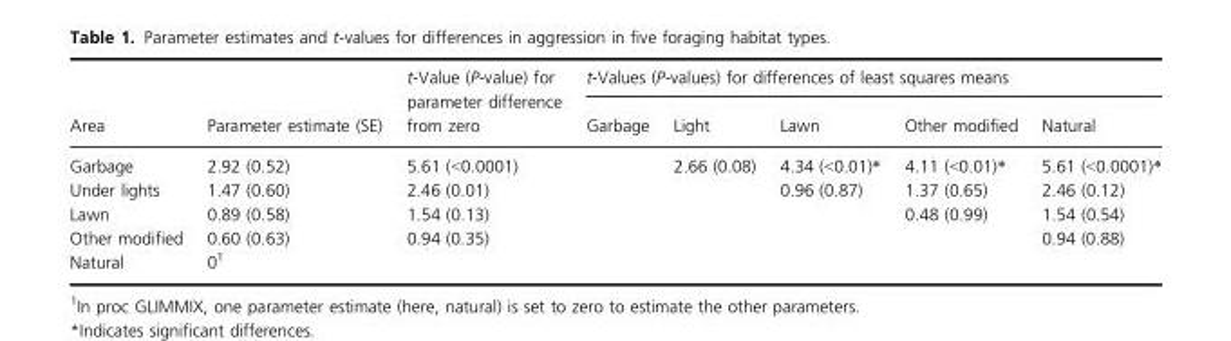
<table><thead><tr><td rowspan="2">Area</td><td rowspan="2">Parameter estimate (SE)</td><td rowspan="2">t-Value (P-value) for parameter difference from zero</td><td colspan="5">t-Values (P-values) for differences of least squares means</td></tr><tr><td>Garbage</td><td>Light</td><td>Lawn</td><td>Other modified</td><td>Natural</td></tr></thead><tbody><tr><td>Garbage</td><td>2.92 (0.52)</td><td>5.61 (&lt;0.0001)</td><td></td><td>2.66 (0.08)</td><td>4.34 (&lt;0.01)*</td><td>4.11 (&lt;0.01)*</td><td>5.61 (&lt;0.0001)*</td></tr><tr><td>Under lights</td><td>1.47 (0.60)</td><td>2.46 (0.01)</td><td></td><td></td><td>0.96 (0.87)</td><td>1.37 (0.65)</td><td>2.46 (0.12)</td></tr><tr><td>Lawn</td><td>0.89 (0.58)</td><td>1.54 (0.13)</td><td></td><td></td><td></td><td>0.48 (0.99)</td><td>1.54 (0.54)</td></tr><tr><td>Other modified</td><td>0.60 (0.63)</td><td>0.94 (0.35)</td><td></td><td></td><td></td><td></td><td>0.94 (0.88)</td></tr><tr><td>Natural</td><td>01</td><td></td><td></td><td></td><td></td><td></td><td></td></tr></tbody></table>